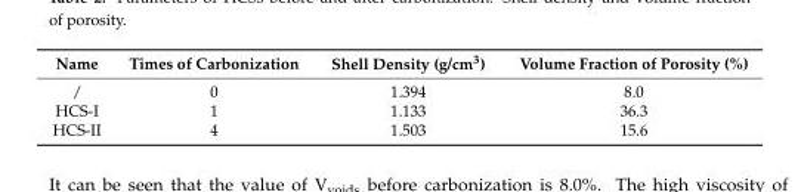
<table><thead><tr><td>Name</td><td>Times of Carbonization</td><td>Shell Density (g/cm<sup>3</sup>)</td><td>Volume Fraction of Porosity (%)</td></tr></thead><tbody><tr><td>/</td><td>0</td><td>1.394</td><td>8.0</td></tr><tr><td>HCS-I</td><td>1</td><td>1.133</td><td>36.3</td></tr><tr><td>HCS-II</td><td>4</td><td>1.503</td><td>15.6</td></tr></tbody></table>